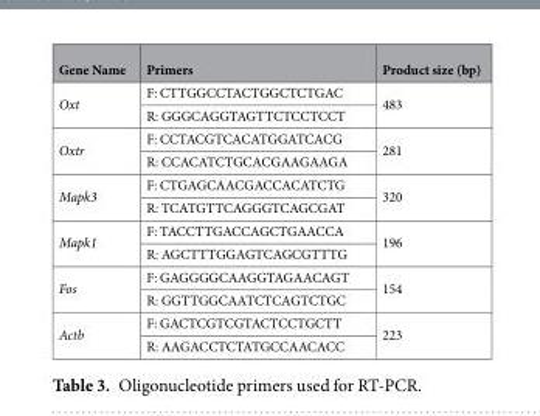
<table><thead><tr><td>Gene Name</td><td>Primers</td><td>Product size (bp)</td></tr></thead><tbody><tr><td rowspan="2">Oxt</td><td>F: CTTGGCCTACTGGCTCTGAC</td><td rowspan="2">483</td></tr><tr><td>R: GGGCAGGTAGTTCTCCTCCT</td></tr><tr><td rowspan="2">Oxtr</td><td>F: CCTACGTCACATGGATCACG</td><td rowspan="2">281</td></tr><tr><td>R: CCACATCTGCACGAAGAAGA</td></tr><tr><td rowspan="2">Mapk3</td><td>F: CTGAGCAACGACCACATCTG</td><td rowspan="2">320</td></tr><tr><td>R: TCATGTTCAGGGTCAGCGAT</td></tr><tr><td rowspan="2">Mapk1</td><td>F: TACCTTGACCAGCTGAACCA</td><td rowspan="2">196</td></tr><tr><td>R: AGCTTTGGAGTCAGCGTTTG</td></tr><tr><td rowspan="2">Fos</td><td>F: GAGGGGCAAGGTAGAACAGT</td><td rowspan="2">154</td></tr><tr><td>R: GGTTGGCAATCTCAGTCTGC</td></tr><tr><td rowspan="2">Actb</td><td>F: GACTCGTCGTACTCCTGCTT</td><td rowspan="2">223</td></tr><tr><td>R: AAGACCTCTATGCCAACACC</td></tr></tbody></table>